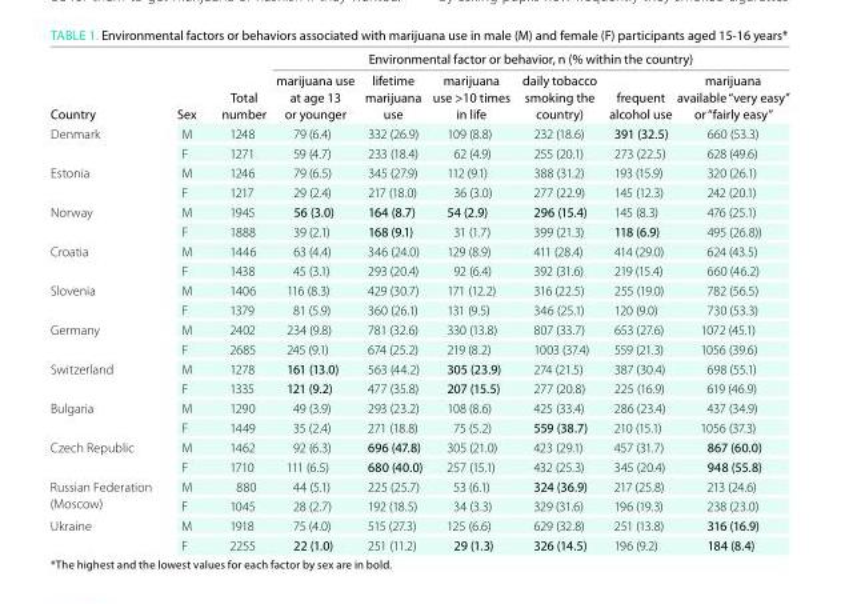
<table><thead><tr><td rowspan="2">Country</td><td rowspan="2">sex</td><td rowspan="2">total number</td><td colspan="6">environmental factor or behavior, n (% within the country)</td></tr><tr><td>marijuana use at age 13 or younger</td><td>lifetime marijuana use</td><td>marijuana use &gt;10 times in life</td><td>daily tobacco smoking the country)</td><td>frequent alcohol use</td><td>marijuana available “very easy” or “fairly easy”</td></tr></thead><tbody><tr><td rowspan="2">Denmark</td><td>M</td><td>1248</td><td>79 (6.4)</td><td>332 (26.9)</td><td>109 (8.8)</td><td>232 (18.6)</td><td>391 (32.5)</td><td>660 (53.3)</td></tr><tr><td>F</td><td>1271</td><td>59 (4.7)</td><td>233 (18.4)</td><td>62 (4.9)</td><td>255 (20.1)</td><td>273 (22.5)</td><td>628 (49.6)</td></tr><tr><td rowspan="2">Estonia</td><td>M</td><td>1246</td><td>79 (6.5)</td><td>345 (27.9)</td><td>112 (9.1)</td><td>388 (31.2)</td><td>193 (15.9)</td><td>320 (26.1)</td></tr><tr><td>F</td><td>1217</td><td>29 (2.4)</td><td>217 (18.0)</td><td>36 (3.0)</td><td>277 (22.9)</td><td>145 (12.3)</td><td>242 (20.1)</td></tr><tr><td rowspan="2">Norway</td><td>M</td><td>1945</td><td>56 (3.0)</td><td>164 (8.7)</td><td>54 (2.9)</td><td>296 (15.4)</td><td>145 (8.3)</td><td>476 (25.1)</td></tr><tr><td>F</td><td>1888</td><td>39 (2.1)</td><td>168 (9.1)</td><td>31 (1.7)</td><td>399 (21.3)</td><td>118 (6.9)</td><td>495 (26.8))</td></tr><tr><td rowspan="2">Croatia</td><td>M</td><td>1446</td><td>63 (4.4)</td><td>346 (24.0)</td><td>129 (8.9)</td><td>411 (28.4)</td><td>414 (29.0)</td><td>624 (43.5)</td></tr><tr><td>F</td><td>1438</td><td>45 (3.1)</td><td>293 (20.4)</td><td>92 (6.4)</td><td>392 (31.6)</td><td>219 (15.4)</td><td>660 (46.2)</td></tr><tr><td rowspan="2">Slovenia</td><td>M</td><td>1406</td><td>116 (8.3)</td><td>429 (30.7)</td><td>171 (12.2)</td><td>316 (22.5)</td><td>255 (19.0)</td><td>782 (56.5)</td></tr><tr><td>F</td><td>1379</td><td>81 (5.9)</td><td>360 (26.1)</td><td>131 (9.5)</td><td>346 (25.1)</td><td>120 (9.0)</td><td>730 (53.3)</td></tr><tr><td rowspan="2">Germany</td><td>M</td><td>2402</td><td>234 (9.8)</td><td>781 (32.6)</td><td>330 (13.8)</td><td>807 (33.7)</td><td>653 (27.6)</td><td>1072 (45.1)</td></tr><tr><td>F</td><td>2685</td><td>245 (9.1)</td><td>674 (25.2)</td><td>219 (8.2)</td><td>1003 (37.4)</td><td>559 (21.3)</td><td>1056 (39.6)</td></tr><tr><td rowspan="2">Switzerland</td><td>M</td><td>1278</td><td>161 (13.0)</td><td>563 (44.2)</td><td>305 (23.9)</td><td>274 (21.5)</td><td>387 (30.4)</td><td>698 (55.1)</td></tr><tr><td>F</td><td>1335</td><td>121 (9.2)</td><td>477 (35.8)</td><td>207 (15.5)</td><td>277 (20.8)</td><td>225 (16.9)</td><td>619 (46.9)</td></tr><tr><td rowspan="2">Bulgaria</td><td>M</td><td>1290</td><td>49 (3.9)</td><td>293 (23.2)</td><td>108 (8.6)</td><td>425 (33.4)</td><td>286 (23.4)</td><td>437 (34.9)</td></tr><tr><td>F</td><td>1449</td><td>35 (2.4)</td><td>271 (18.8)</td><td>75 (5.2)</td><td>559 (38.7)</td><td>210 (15.1)</td><td>1056 (37.3)</td></tr><tr><td rowspan="2">Czech Republic</td><td>M</td><td>1462</td><td>92 (6.3)</td><td>696 (47.8)</td><td>305 (21.0)</td><td>423 (29.1)</td><td>457 (31.7)</td><td>867 (60.0)</td></tr><tr><td>F</td><td>1710</td><td>111 (6.5)</td><td>680 (40.0)</td><td>257 (15.1)</td><td>432 (25.3)</td><td>345 (20.4)</td><td>948 (55.8)</td></tr><tr><td rowspan="2">Russian Federation (Moscow)</td><td>M</td><td>880</td><td>44 (5.1)</td><td>225 (25.7)</td><td>53 (6.1)</td><td>324 (36.9)</td><td>217 (25.8)</td><td>213 (24.6)</td></tr><tr><td>F</td><td>1045</td><td>28 (2.7)</td><td>192 (18.5)</td><td>34 (3.3)</td><td>329 (31.6)</td><td>196 (19.3)</td><td>238 (23.0)</td></tr><tr><td rowspan="2">Ukraine</td><td>M</td><td>1918</td><td>75 (4.0)</td><td>515 (27.3)</td><td>125 (6.6)</td><td>629 (32.8)</td><td>251 (13.8)</td><td>316 (16.9)</td></tr><tr><td>F</td><td>2255</td><td>22 (1.0)</td><td>251 (11.2)</td><td>29 (1.3)</td><td>326 (14.5)</td><td>196 (9.2)</td><td>184 (8.4)</td></tr></tbody></table>